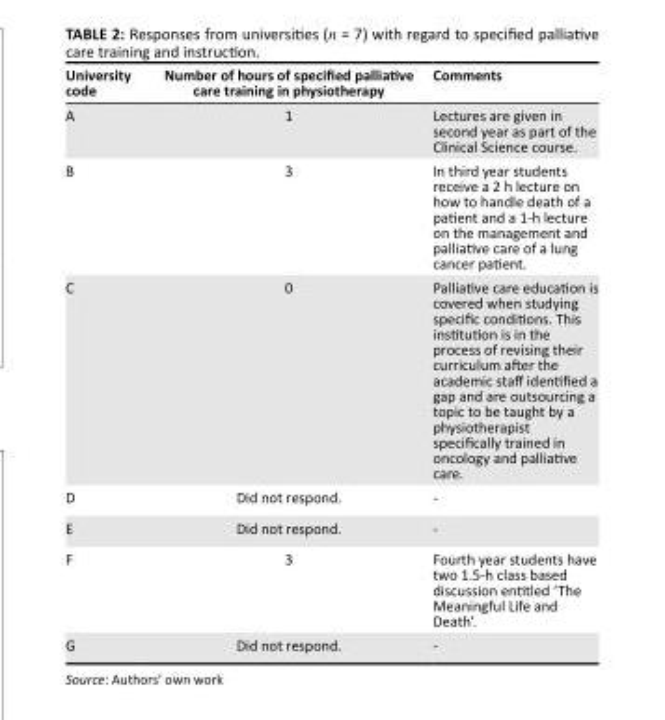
<table><thead><tr><td>University code</td><td>Number of hours of specified palliative care training in physiotherapy</td><td>Comments</td></tr></thead><tbody><tr><td>A</td><td>1</td><td>Lectures are given in second year as part of the Clinical Science course.</td></tr><tr><td>B</td><td>3</td><td>In third year students receive a 2 h lecture on how to handle death of a patient and a 1-h lecture on the management and palliative care of a lung cancer patient.</td></tr><tr><td>C</td><td>0</td><td>Palliative care education is covered when studying specific conditions. This institution is in the process of revising their curriculum after the academic staff identified a gap and are outsourcing a topic to be taught by a physiotherapist specifically trained in oncology and palliative care.</td></tr><tr><td>D</td><td>Did not respond.</td><td>-</td></tr><tr><td>E</td><td>Did not respond.</td><td>-</td></tr><tr><td>F</td><td>3</td><td>Fourth year students have two 1.5-h class based discussion entitled ‘The Meaningful Life and Death’.</td></tr><tr><td>G</td><td>Did not respond.</td><td>-</td></tr></tbody></table>